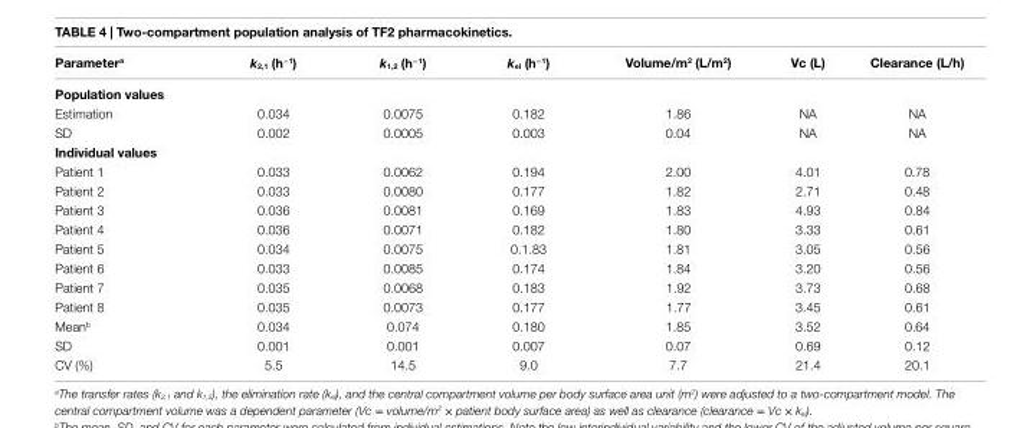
<table><thead><tr><td>Parameter<sup>a</sup></td><td>k<sub>2,1</sub> (h<sup>−1</sup>)</td><td>k<sub>1,2</sub> (h<sup>−1</sup>)</td><td>k<sub>el</sub> (h<sup>−1</sup>)</td><td>Volume/m<sup>2</sup> (l/m<sup>2</sup>)</td><td>Vc (l)</td><td>Clearance (l/h)</td></tr></thead><tbody><tr><td colspan="7">Population values</td></tr><tr><td>Estimation</td><td>0.034</td><td>0.0075</td><td>0.182</td><td>1.86</td><td>NA</td><td>NA</td></tr><tr><td>SD</td><td>0.002</td><td>0.0005</td><td>0.003</td><td>0.04</td><td>NA</td><td>NA</td></tr><tr><td colspan="7">individual values</td></tr><tr><td>Patient 1</td><td>0.033</td><td>0.0062</td><td>0.194</td><td>2.00</td><td>4.01</td><td>0.78</td></tr><tr><td>Patient 2</td><td>0.033</td><td>0.0080</td><td>0.177</td><td>1.82</td><td>2.71</td><td>0.48</td></tr><tr><td>Patient 3</td><td>0.036</td><td>0.0081</td><td>0.169</td><td>1.83</td><td>4.93</td><td>0.84</td></tr><tr><td>Patient 4</td><td>0.036</td><td>0.0071</td><td>0.182</td><td>1.80</td><td>3.33</td><td>0.61</td></tr><tr><td>Patient 5</td><td>0.034</td><td>0.0075</td><td>0.1.83</td><td>1.81</td><td>3.05</td><td>0.56</td></tr><tr><td>Patient 6</td><td>0.033</td><td>0.0085</td><td>0.174</td><td>1.84</td><td>3.20</td><td>0.56</td></tr><tr><td>Patient 7</td><td>0.035</td><td>0.0068</td><td>0.183</td><td>1.92</td><td>3.73</td><td>0.68</td></tr><tr><td>Patient 8</td><td>0.035</td><td>0.0073</td><td>0.177</td><td>1.77</td><td>3.45</td><td>0.61</td></tr><tr><td>Mean<sup>b</sup></td><td>0.034</td><td>0.074</td><td>0.180</td><td>1.85</td><td>3.52</td><td>0.64</td></tr><tr><td>SD</td><td>0.001</td><td>0.001</td><td>0.007</td><td>0.07</td><td>0.69</td><td>0.12</td></tr><tr><td>CV (%)</td><td>5.5</td><td>14.5</td><td>9.0</td><td>7.7</td><td>21.4</td><td>20.1</td></tr></tbody></table>